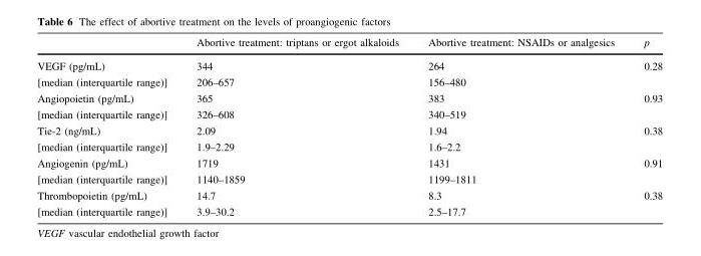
<table><thead><tr><td></td><td>Abortive treatment: triptans or ergot alkaloids</td><td>Abortive treatment: NSAIDs or analgesics</td><td>p</td></tr></thead><tbody><tr><td>VEGF (pg/mL) [median (interquartile range)]</td><td>344 206–657</td><td>264 156–480</td><td>0.28</td></tr><tr><td>Angiopoietin (pg/mL) [median (interquartile range)]</td><td>365 326–608</td><td>383 340–519</td><td>0.93</td></tr><tr><td>Tie-2 (ng/mL) [median (interquartile range)]</td><td>2.09 1.9–2.29</td><td>1.94 1.6–2.2</td><td>0.38</td></tr><tr><td>Angiogenin (pg/mL) [median (interquartile range)]</td><td>1719 1140–1859</td><td>1431 1199–1811</td><td>0.91</td></tr><tr><td>Thrombopoietin (pg/mL) [median (interquartile range)]</td><td>14.7 3.9–30.2</td><td>8.3 2.5–17.7</td><td>0.38</td></tr></tbody></table>